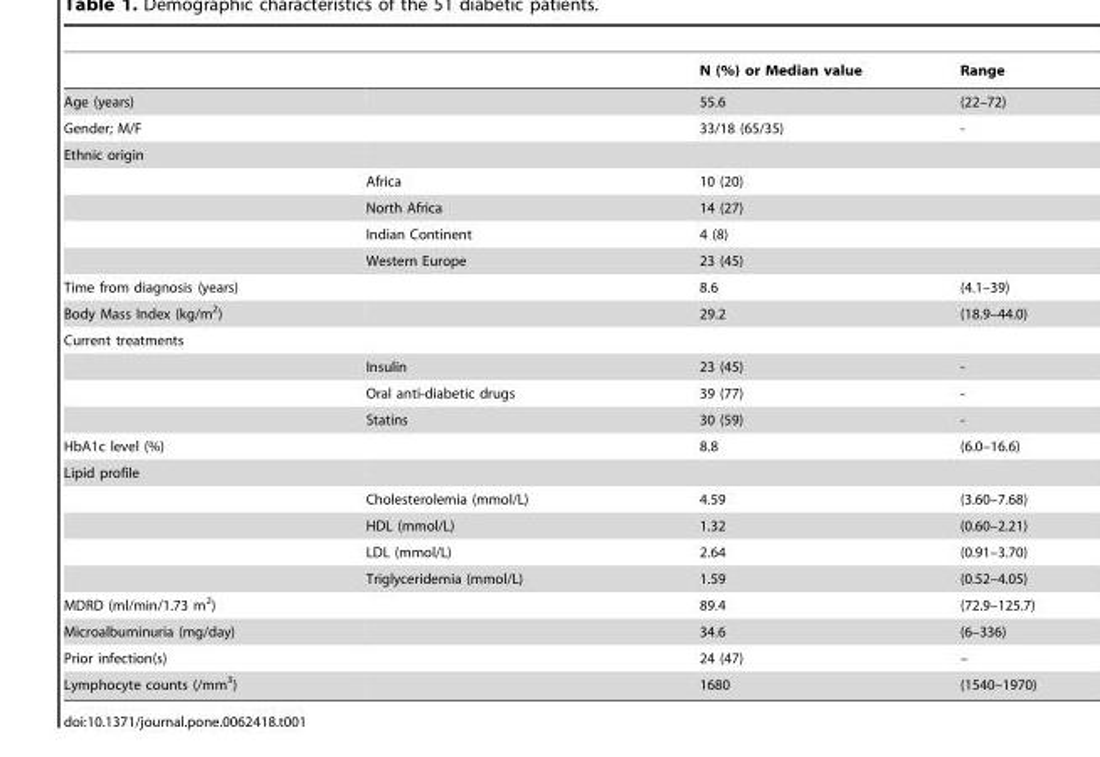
<table><thead><tr><td></td><td></td><td>N (%) or Median value</td><td>Range</td></tr></thead><tbody><tr><td>Age (years)</td><td></td><td>55.6</td><td>(22–72)</td></tr><tr><td>Gender; M/F</td><td></td><td>33/18 (65/35)</td><td>-</td></tr><tr><td colspan="4">Ethnic origin</td></tr><tr><td></td><td>Africa</td><td>10 (20)</td><td></td></tr><tr><td></td><td>North Africa</td><td>14 (27)</td><td></td></tr><tr><td></td><td>Indian Continent</td><td>4 (8)</td><td></td></tr><tr><td></td><td>Western Europe</td><td>23 (45)</td><td></td></tr><tr><td>Time from diagnosis (years)</td><td></td><td>8.6</td><td>(4.1–39)</td></tr><tr><td>Body Mass Index (kg/m<sup>2</sup>)</td><td></td><td>29.2</td><td>(18.9–44.0)</td></tr><tr><td colspan="4">Current treatments</td></tr><tr><td></td><td>Insulin</td><td>23 (45)</td><td>-</td></tr><tr><td></td><td>Oral anti-diabetic drugs</td><td>39 (77)</td><td>-</td></tr><tr><td></td><td>Statins</td><td>30 (59)</td><td>-</td></tr><tr><td>HbA1c level (%)</td><td></td><td>8.8</td><td>(6.0–16.6)</td></tr><tr><td colspan="4">Lipid profile</td></tr><tr><td></td><td>Cholesterolemia (mmol/L)</td><td>4.59</td><td>(3.60–7.68)</td></tr><tr><td></td><td>HDL (mmol/L)</td><td>1.32</td><td>(0.60–2.21)</td></tr><tr><td></td><td>LDL (mmol/L)</td><td>2.64</td><td>(0.91–3.70)</td></tr><tr><td></td><td>Triglyceridemia (mmol/L)</td><td>1.59</td><td>(0.52–4.05)</td></tr><tr><td>MDRD (ml/min/1.73 m<sup>2</sup>)</td><td></td><td>89.4</td><td>(72.9–125.7)</td></tr><tr><td>Microalbuminuria (mg/day)</td><td></td><td>34.6</td><td>(6–336)</td></tr><tr><td>Prior infection(s)</td><td></td><td>24 (47)</td><td>–</td></tr><tr><td>Lymphocyte counts (/mm<sup>3</sup>)</td><td></td><td>1680</td><td>(1540–1970)</td></tr></tbody></table>